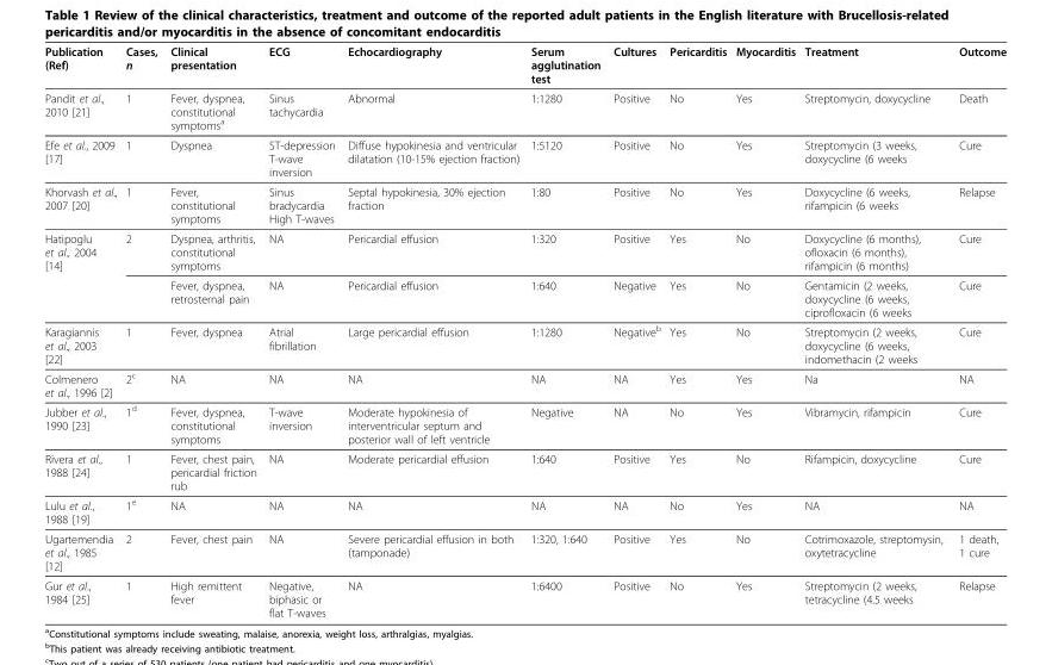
<table><thead><tr><td>Publication (Ref)</td><td>Cases, n</td><td>Clinical presentation</td><td>ECG</td><td>Echocardiography</td><td>Serum agglutination test</td><td>Cultures</td><td>Pericarditis</td><td>Myocarditis</td><td>Treatment</td><td>Outcome</td></tr></thead><tbody><tr><td>Pandit et al., 2010 [21]</td><td>1</td><td>Fever, dyspnea, constitutional symptoms<sup>a</sup></td><td>Sinus tachycardia</td><td>Abnormal</td><td>1:1280</td><td>Positive</td><td>No</td><td>Yes</td><td>Streptomycin, doxycycline</td><td>Death</td></tr><tr><td>Efe et al., 2009 [17]</td><td>1</td><td>Dyspnea</td><td>ST-depression T-wave inversion</td><td>Diffuse hypokinesia and ventricular dilatation (10-15% ejection fraction)</td><td>1:5120</td><td>Positive</td><td>No</td><td>Yes</td><td>Streptomycin (3 weeks, doxycycline (6 weeks</td><td>Cure</td></tr><tr><td>Khorvash et al., 2007 [20]</td><td>1</td><td>Fever, constitutional symptoms</td><td>Sinus bradycardia High T-waves</td><td>Septal hypokinesia, 30% ejection fraction</td><td>1:80</td><td>Positive</td><td>No</td><td>Yes</td><td>Doxycycline (6 weeks, rifampicin (6 weeks</td><td>Relapse</td></tr><tr><td rowspan="2">Hatipoglu et al., 2004 [14]</td><td>2</td><td>Dyspnea, arthritis, constitutional symptoms</td><td>NA</td><td>Pericardial effusion</td><td>1:320</td><td>Positive</td><td>Yes</td><td>No</td><td>Doxycycline (6 months), ofloxacin (6 months), rifampicin (6 months)</td><td>Cure</td></tr><tr><td></td><td>Fever, dyspnea, retrosternal pain</td><td>NA</td><td>Pericardial effusion</td><td>1:640</td><td>Negative</td><td>Yes</td><td>No</td><td>Gentamicin (2 weeks, doxycycline (6 weeks, ciprofloxacin (6 weeks</td><td>Cure</td></tr><tr><td>Karagiannis et al., 2003 [22]</td><td>1</td><td>Fever, dyspnea</td><td>Atrial fibrillation</td><td>Large pericardial effusion</td><td>1:1280</td><td>Negative<sup>b</sup></td><td>Yes</td><td>No</td><td>Streptomycin (2 weeks, doxycycline (6 weeks, indomethacin (2 weeks</td><td>Cure</td></tr><tr><td>Colmenero et al., 1996 [2]</td><td>2<sup>c</sup></td><td>NA</td><td>NA</td><td>NA</td><td>NA</td><td>NA</td><td>Yes</td><td>Yes</td><td>Na</td><td>NA</td></tr><tr><td>Jubber et al., 1990 [23]</td><td>1<sup>d</sup></td><td>Fever, dyspnea, constitutional symptoms</td><td>T-wave inversion</td><td>Moderate hypokinesia of interventricular septum and posterior wall of left ventricle</td><td>Negative</td><td>NA</td><td>No</td><td>Yes</td><td>Vibramycin, rifampicin</td><td>Cure</td></tr><tr><td>Rivera et al., 1988 [24]</td><td>1</td><td>Fever, chest pain, pericardial friction rub</td><td>NA</td><td>Moderate pericardial effusion</td><td>1:640</td><td>Positive</td><td>Yes</td><td>No</td><td>Rifampicin, doxycycline</td><td>Cure</td></tr><tr><td>Lulu et al., 1988 [19]</td><td>1<sup>e</sup></td><td>NA</td><td>NA</td><td>NA</td><td>NA</td><td>NA</td><td>No</td><td>Yes</td><td>NA</td><td>NA</td></tr><tr><td>Ugartemendia et al., 1985 [12]</td><td>2</td><td>Fever, chest pain</td><td>NA</td><td>Severe pericardial effusion in both (tamponade)</td><td>1:320, 1:640</td><td>Positive</td><td>Yes</td><td>No</td><td>Cotrimoxazole, streptomysin, oxytetracycline</td><td>1 death, 1 cure</td></tr><tr><td>Gur et al., 1984 [25]</td><td>1</td><td>High remittent fever</td><td>Negative, biphasic or flat T-waves</td><td>NA</td><td>1:6400</td><td>Positive</td><td>No</td><td>Yes</td><td>Streptomycin (2 weeks, tetracycline (4.5 weeks</td><td>Relapse</td></tr></tbody></table>